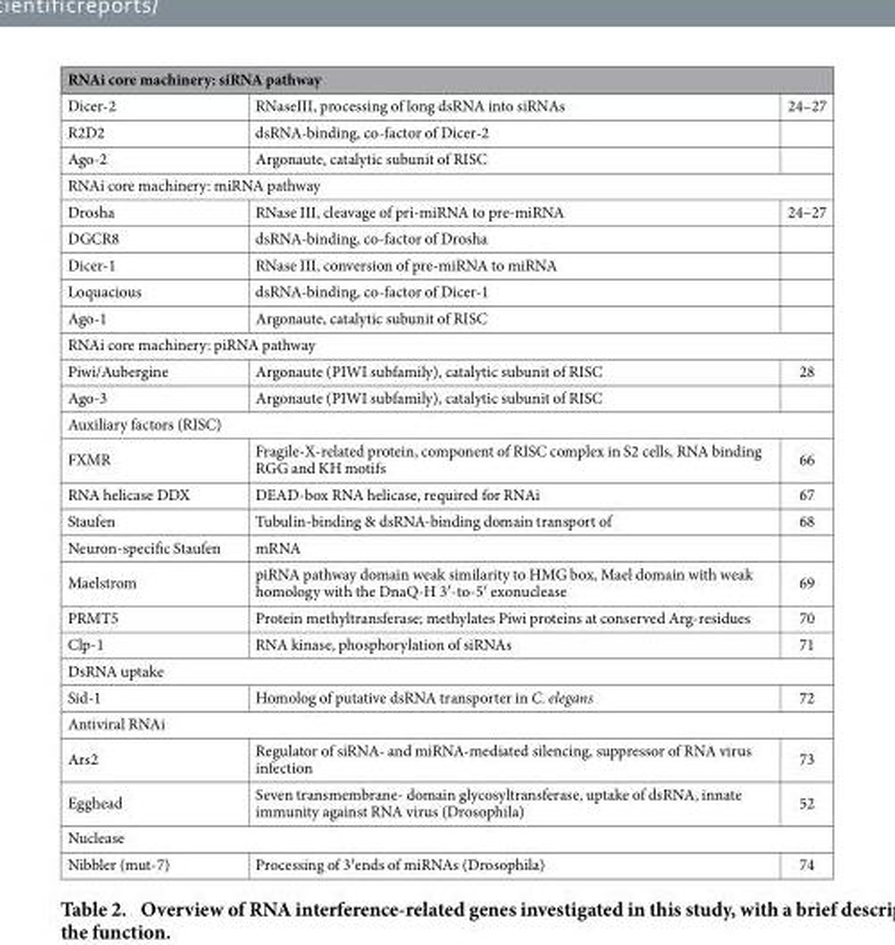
<table><thead><tr><td colspan="3">RNAi core machinery: siRNA pathway</td></tr><tr><td>Dicer-2</td><td>RNaseIII, processing of long dsRNA into siRNAs</td><td>24–27</td></tr></thead><tbody><tr><td>R2D2</td><td>dsRNA-binding, co-factor of Dicer-2</td><td></td></tr><tr><td>Ago-2</td><td>Argonaute, catalytic subunit of RISC</td><td></td></tr><tr><td colspan="3">RNAi core machinery: miRNA pathway</td></tr><tr><td>Drosha</td><td>RNase III, cleavage of pri-miRNA to pre-miRNA</td><td>24–27</td></tr><tr><td>DGCR8</td><td>dsRNA-binding, co-factor of Drosha</td><td></td></tr><tr><td>Dicer-1</td><td>RNase III, conversion of pre-miRNA to miRNA</td><td></td></tr><tr><td>Loquacious</td><td>dsRNA-binding, co-factor of Dicer-1</td><td></td></tr><tr><td>Ago-1</td><td>Argonaute, catalytic subunit of RISC</td><td></td></tr><tr><td colspan="3">RNAi core machinery: piRNA pathway</td></tr><tr><td>Piwi/Aubergine</td><td>Argonaute (PIWI subfamily), catalytic subunit of RISC</td><td>28</td></tr><tr><td>Ago-3</td><td>Argonaute (PIWI subfamily), catalytic subunit of RISC</td><td></td></tr><tr><td colspan="3">Auxiliary factors (RISC)</td></tr><tr><td>FXMR</td><td>Fragile-X-related protein, component of RISC complex in S2 cells, RNA binding RGG and KH motifs</td><td>66</td></tr><tr><td>RNA helicase DDX</td><td>DEAD-box RNA helicase, required for RNAi</td><td>67</td></tr><tr><td>Staufen</td><td>Tubulin-binding &amp; dsRNA-binding domain transport of</td><td>68</td></tr><tr><td>Neuron-specific Staufen</td><td>mRNA</td><td></td></tr><tr><td>Maelstrom</td><td>piRNA pathway domain weak similarity to HMG box, Mael domain with weak homology with the DnaQ-H 3′ -to-5′ exonuclease</td><td>69</td></tr><tr><td>PRMT5</td><td>Protein methyltransferase; methylates Piwi proteins at conserved Arg-residues</td><td>70</td></tr><tr><td>Clp-1</td><td>RNA kinase, phosphorylation of siRNAs</td><td>71</td></tr><tr><td colspan="3">DsRNA uptake</td></tr><tr><td>Sid-1</td><td>Homolog of putative dsRNA transporter in C. elegans</td><td>72</td></tr><tr><td colspan="3">Antiviral RNAi</td></tr><tr><td>Ars2</td><td>Regulator of siRNA- and miRNA-mediated silencing, suppressor of RNA virus infection</td><td>73</td></tr><tr><td>Egghead</td><td>Seven transmembrane- domain glycosyltransferase, uptake of dsRNA, innate immunity against RNA virus (Drosophila)</td><td>52</td></tr><tr><td colspan="3">Nuclease</td></tr><tr><td>Nibbler (mut-7)</td><td>Processing of 3′ ends of miRNAs (Drosophila)</td><td>74</td></tr></tbody></table>